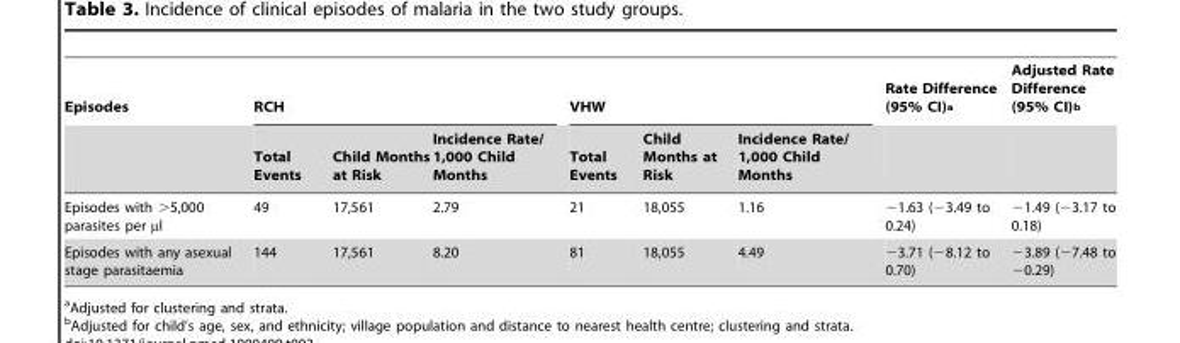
<table><thead><tr><td rowspan="2">Episodes</td><td colspan="3">RCH</td><td colspan="3">VHW</td><td rowspan="2">Rate Difference (95% CI)<sup>a</sup></td><td rowspan="2">Adjusted Rate Difference (95% CI)<sup>b</sup></td></tr><tr><td>Total Events</td><td>Child Months at Risk</td><td>Incidence Rate/ 1,000 Child Months</td><td>Total Events</td><td>Child Months at Risk</td><td>Incidence Rate/ 1,000 Child Months</td></tr></thead><tbody><tr><td>Episodes with &gt;5,000 parasites per µl</td><td>49</td><td>17,561</td><td>2.79</td><td>21</td><td>18,055</td><td>1.16</td><td>−1.63 (−3.49 to 0.24)</td><td>−1.49 (−3.17 to 0.18)</td></tr><tr><td>Episodes with any asexual stage parasitaemia</td><td>144</td><td>17,561</td><td>8.20</td><td>81</td><td>18,055</td><td>4.49</td><td>−3.71 (−8.12 to 0.70)</td><td>−3.89 (−7.48 to −0.29)</td></tr></tbody></table>